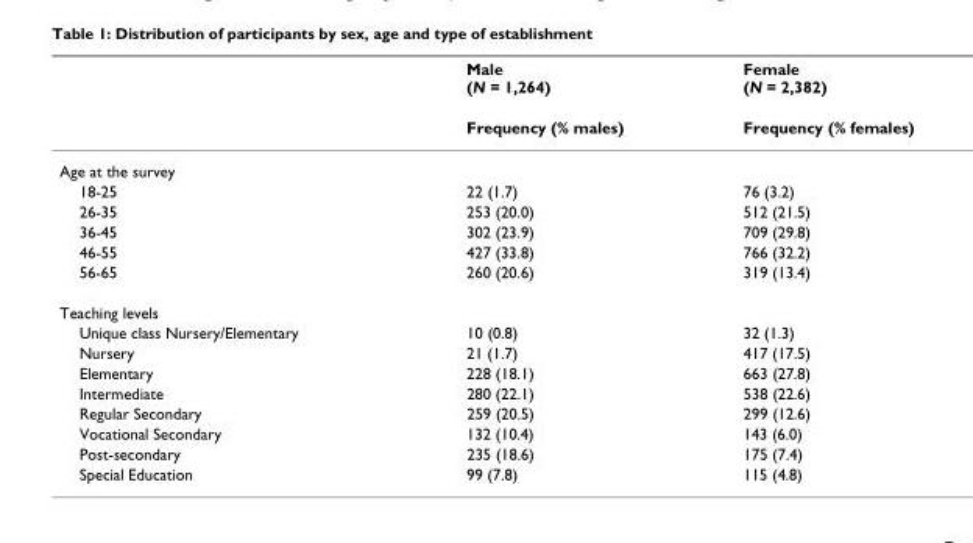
<table><thead><tr><td rowspan="2"></td><td rowspan="2">Male (N = 1,264) Frequency (% males)</td><td rowspan="2">Female (N = 2,382) Frequency (% females)</td></tr><tr></tr></thead><tbody><tr><td colspan="3">Age at the survey</td></tr><tr><td>18-25</td><td>22 (1.7)</td><td>76 (3.2)</td></tr><tr><td>26-35</td><td>253 (20.0)</td><td>512 (21.5)</td></tr><tr><td>36-45</td><td>302 (23.9)</td><td>709 (29.8)</td></tr><tr><td>46-55</td><td>427 (33.8)</td><td>766 (32.2)</td></tr><tr><td>56-65</td><td>260 (20.6)</td><td>319 (13.4)</td></tr><tr><td colspan="3">Teaching levels</td></tr><tr><td>Unique class Nursery/Elementary</td><td>10 (0.8)</td><td>32 (1.3)</td></tr><tr><td>Nursery</td><td>21 (1.7)</td><td>417 (17.5)</td></tr><tr><td>Elementary</td><td>228 (18.1)</td><td>663 (27.8)</td></tr><tr><td>Intermediate</td><td>280 (22.1)</td><td>538 (22.6)</td></tr><tr><td>Regular Secondary</td><td>259 (20.5)</td><td>299 (12.6)</td></tr><tr><td>Vocational Secondary</td><td>132 (10.4)</td><td>143 (6.0)</td></tr><tr><td>Post-secondary</td><td>235 (18.6)</td><td>175 (7.4)</td></tr><tr><td>Special Education</td><td>99 (7.8)</td><td>115 (4.8)</td></tr></tbody></table>